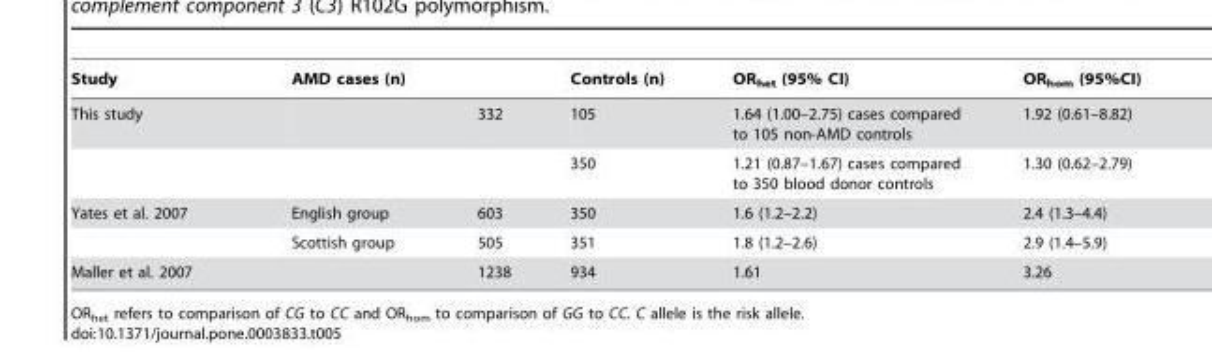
<table><thead><tr><td>Study</td><td>AMD cases (n)</td><td></td><td>Controls (n)</td><td>OR<sub>het</sub> (95% CI)</td><td>OR<sub>hom</sub> (95%CI)</td></tr></thead><tbody><tr><td rowspan="2">This study</td><td></td><td>332</td><td>105</td><td>1.64 (1.00–2.75) cases compared to 105 non-AMD controls</td><td>1.92 (0.61–8.82)</td></tr><tr><td></td><td></td><td>350</td><td>1.21 (0.87–1.67) cases compared to 350 blood donor controls</td><td>1.30 (0.62–2.79)</td></tr><tr><td rowspan="2">Yates et al. 2007</td><td>English group</td><td>603</td><td>350</td><td>1.6 (1.2–2.2)</td><td>2.4 (1.3–4.4)</td></tr><tr><td>Scottish group</td><td>505</td><td>351</td><td>1.8 (1.2–2.6)</td><td>2.9 (1.4–5.9)</td></tr><tr><td>Maller et al. 2007</td><td></td><td>1238</td><td>934</td><td>1.61</td><td>3.26</td></tr></tbody></table>